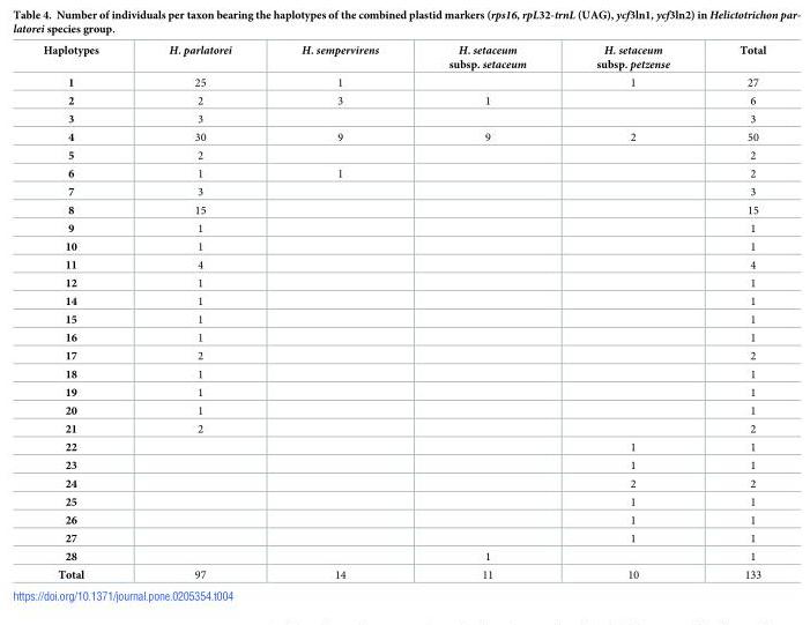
<table><thead><tr><td>Haplotypes</td><td>H. parlatorei</td><td>H. sempervirens</td><td>H. setaceum subsp. setaceum</td><td>H. setaceum subsp. petzense</td><td>Total</td></tr></thead><tbody><tr><td>1</td><td>25</td><td>1</td><td></td><td>1</td><td>27</td></tr><tr><td>2</td><td>2</td><td>3</td><td>1</td><td></td><td>6</td></tr><tr><td>3</td><td>3</td><td></td><td></td><td></td><td>3</td></tr><tr><td>4</td><td>30</td><td>9</td><td>9</td><td>2</td><td>50</td></tr><tr><td>5</td><td>2</td><td></td><td></td><td></td><td>2</td></tr><tr><td>6</td><td>1</td><td>1</td><td></td><td></td><td>2</td></tr><tr><td>7</td><td>3</td><td></td><td></td><td></td><td>3</td></tr><tr><td>8</td><td>15</td><td></td><td></td><td></td><td>15</td></tr><tr><td>9</td><td>1</td><td></td><td></td><td></td><td>1</td></tr><tr><td>10</td><td>1</td><td></td><td></td><td></td><td>1</td></tr><tr><td>11</td><td>4</td><td></td><td></td><td></td><td>4</td></tr><tr><td>12</td><td>1</td><td></td><td></td><td></td><td>1</td></tr><tr><td>14</td><td>1</td><td></td><td></td><td></td><td>1</td></tr><tr><td>15</td><td>1</td><td></td><td></td><td></td><td>1</td></tr><tr><td>16</td><td>1</td><td></td><td></td><td></td><td>1</td></tr><tr><td>17</td><td>2</td><td></td><td></td><td></td><td>2</td></tr><tr><td>18</td><td>1</td><td></td><td></td><td></td><td>1</td></tr><tr><td>19</td><td>1</td><td></td><td></td><td></td><td>1</td></tr><tr><td>20</td><td>1</td><td></td><td></td><td></td><td>1</td></tr><tr><td>21</td><td>2</td><td></td><td></td><td></td><td>2</td></tr><tr><td>22</td><td></td><td></td><td></td><td>1</td><td>1</td></tr><tr><td>23</td><td></td><td></td><td></td><td>1</td><td>1</td></tr><tr><td>24</td><td></td><td></td><td></td><td>2</td><td>2</td></tr><tr><td>25</td><td></td><td></td><td></td><td>1</td><td>1</td></tr><tr><td>26</td><td></td><td></td><td></td><td>1</td><td>1</td></tr><tr><td>27</td><td></td><td></td><td></td><td>1</td><td>1</td></tr><tr><td>28</td><td></td><td></td><td>1</td><td></td><td>1</td></tr><tr><td>Total</td><td>97</td><td>14</td><td>11</td><td>10</td><td>133</td></tr></tbody></table>